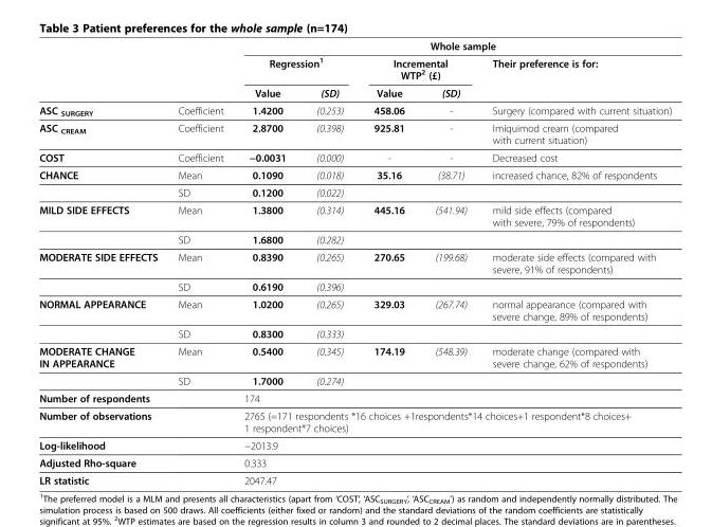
<table><thead><tr><td rowspan="3"></td><td rowspan="3"></td><td colspan="5">Whole sample</td></tr><tr><td colspan="2">Regression<sup>1</sup></td><td colspan="2">Incremental WTP<sup>2</sup> (£)</td><td rowspan="2">Their preference is for:</td></tr><tr><td>Value</td><td>(SD)</td><td>Value</td><td>(SD)</td></tr></thead><tbody><tr><td>ASC <sub>SURGERY</sub></td><td>Coefficient</td><td>1.4200</td><td>(0.253)</td><td>458.06</td><td>-</td><td>Surgery (compared with current situation)</td></tr><tr><td>ASC <sub>CREAM</sub></td><td>Coefficient</td><td>2.8700</td><td>(0.398)</td><td>925.81</td><td>-</td><td>Imiquimod cream (compared with current situation)</td></tr><tr><td>COST</td><td>Coefficient</td><td>−0.0031</td><td>(0.000)</td><td>-</td><td>-</td><td>Decreased cost</td></tr><tr><td rowspan="2">CHANCE</td><td>Mean</td><td>0.1090</td><td>(0.018)</td><td>35.16</td><td>(38.71)</td><td>increased chance, 82% of respondents</td></tr><tr><td>SD</td><td>0.1200</td><td>(0.022)</td><td></td><td></td><td></td></tr><tr><td rowspan="2">MILD SIDE EFFECTS</td><td>Mean</td><td>1.3800</td><td>(0.314)</td><td>445.16</td><td>(541.94)</td><td>mild side effects (compared with severe, 79% of respondents)</td></tr><tr><td>SD</td><td>1.6800</td><td>(0.282)</td><td></td><td></td><td></td></tr><tr><td rowspan="2">MODERATE SIDE EFFECTS</td><td>Mean</td><td>0.8390</td><td>(0.265)</td><td>270.65</td><td>(199.68)</td><td>moderate side effects (compared with severe, 91% of respondents)</td></tr><tr><td>SD</td><td>0.6190</td><td>(0.396)</td><td></td><td></td><td></td></tr><tr><td rowspan="2">NORMAL APPEARANCE</td><td>Mean</td><td>1.0200</td><td>(0.265)</td><td>329.03</td><td>(267.74)</td><td>normal appearance (compared with severe change, 89% of respondents)</td></tr><tr><td>SD</td><td>0.8300</td><td>(0.333)</td><td></td><td></td><td></td></tr><tr><td rowspan="2">MODERATE CHANGE IN APPEARANCE</td><td>Mean</td><td>0.5400</td><td>(0.345)</td><td>174.19</td><td>(548.39)</td><td>moderate change (compared with severe change, 62% of respondents)</td></tr><tr><td>SD</td><td>1.7000</td><td>(0.274)</td><td></td><td></td><td></td></tr><tr><td>Number of respondents</td><td></td><td colspan="5">174</td></tr><tr><td>Number of observations</td><td></td><td colspan="5">2765 (=171 respondents *16 choices +1respondents*14 choices+1 respondent*8 choices+ 1 respondent*7 choices)</td></tr><tr><td>Log-likelihood</td><td></td><td colspan="5">−2013.9</td></tr><tr><td>Adjusted Rho-square</td><td></td><td colspan="5">0.333</td></tr><tr><td>LR statistic</td><td></td><td colspan="5">2047.47</td></tr></tbody></table>